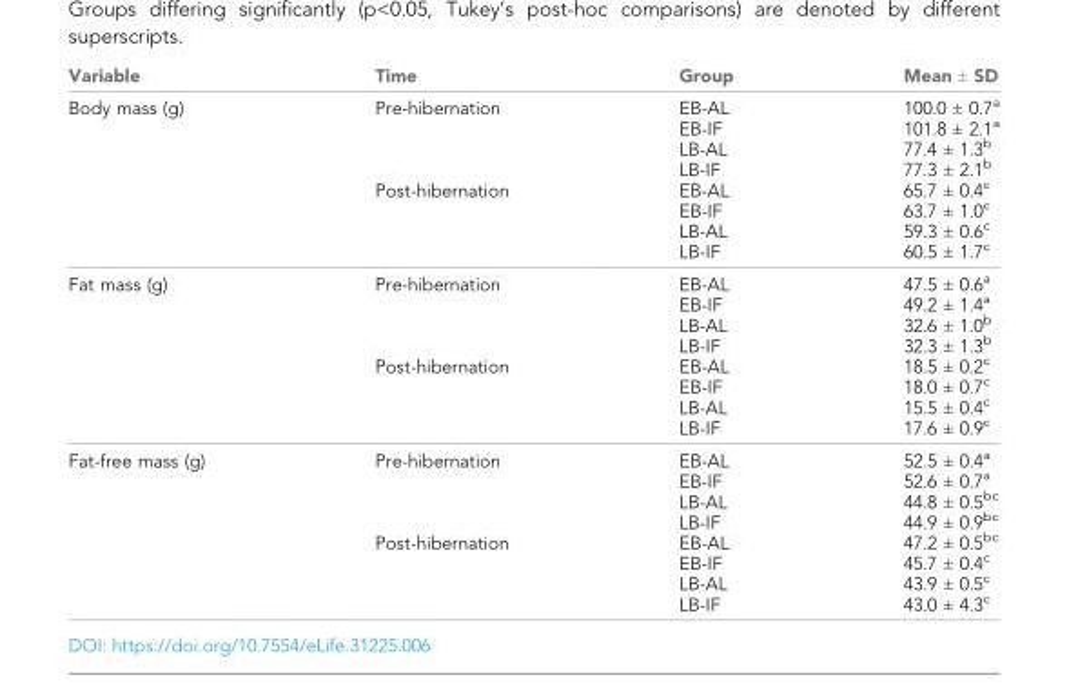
<table><thead><tr><td>Variable</td><td>Time</td><td>Group</td><td>Mean ± SD</td></tr></thead><tbody><tr><td>Body mass (g)</td><td>Pre-hibernation Post-hibernation</td><td>EB-AL EB-IF LB-AL LB-IF EB-AL EB-IF LB-AL LB-IF</td><td>100.0 ± 0.7<sup>a</sup> 101.8 ± 2.1<sup>a</sup> 77.4 ± 1.3<sup>b</sup> 77.3 ± 2.1<sup>b</sup> 65.7 ± 0.4<sup>c</sup> 63.7 ± 1.0<sup>c</sup> 59.3 ± 0.6<sup>c</sup> 60.5 ± 1.7<sup>c</sup></td></tr><tr><td>Fat mass (g)</td><td>Pre-hibernation Post-hibernation</td><td>EB-AL EB-IF LB-AL LB-IF EB-AL EB-IF LB-AL LB-IF</td><td>47.5 ± 0.6<sup>a</sup> 49.2 ± 1.4<sup>a</sup> 32.6 ± 1.0<sup>b</sup> 32.3 ± 1.3<sup>b</sup> 18.5 ± 0.2<sup>c</sup> 18.0 ± 0.7<sup>c</sup> 15.5 ± 0.4<sup>c</sup> 17.6 ± 0.9<sup>c</sup></td></tr><tr><td>Fat-free mass (g)</td><td>Pre-hibernation Post-hibernation</td><td>EB-AL EB-IF LB-AL LB-IF EB-AL EB-IF LB-AL LB-IF</td><td>52.5 ± 0.4<sup>a</sup> 52.6 ± 0.7<sup>a</sup> 44.8 ± 0.5<sup>bc</sup> 44.9 ± 0.9<sup>bc</sup> 47.2 ± 0.5<sup>bc</sup> 45.7 ± 0.4<sup>c</sup> 43.9 ± 0.5<sup>c</sup> 43.0 ± 4.3<sup>c</sup></td></tr></tbody></table>